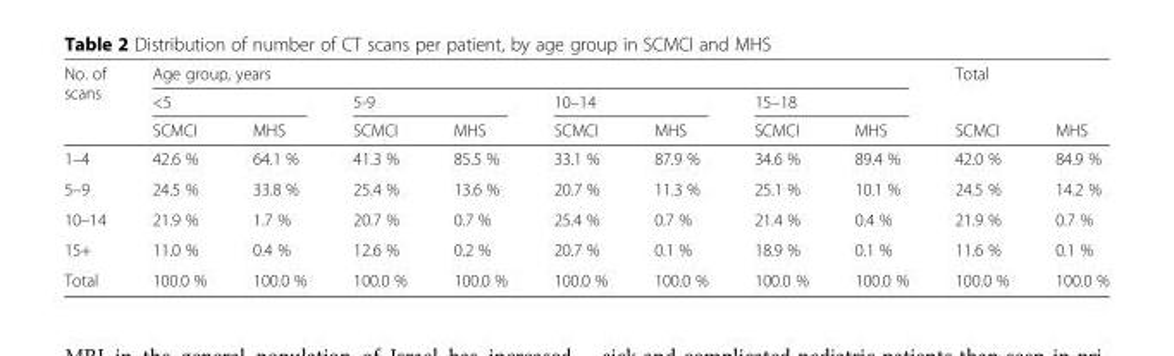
<table><thead><tr><td rowspan="3">No. of scans</td><td colspan="8">Age group, years</td><td rowspan="2" colspan="2">Total</td></tr><tr><td colspan="2">&lt;5</td><td colspan="2">5-9</td><td colspan="2">10–14</td><td colspan="2">15–18</td></tr><tr><td>SCMCI</td><td>MHS</td><td>SCMCI</td><td>MHS</td><td>SCMCI</td><td>MHS</td><td>SCMCI</td><td>MHS</td><td>SCMCI</td><td>MHS</td></tr></thead><tbody><tr><td>1–4</td><td>42.6 %</td><td>64.1 %</td><td>41.3 %</td><td>85.5 %</td><td>33.1 %</td><td>87.9 %</td><td>34.6 %</td><td>89.4 %</td><td>42.0 %</td><td>84.9 %</td></tr><tr><td>5–9</td><td>24.5 %</td><td>33.8 %</td><td>25.4 %</td><td>13.6 %</td><td>20.7 %</td><td>11.3 %</td><td>25.1 %</td><td>10.1 %</td><td>24.5 %</td><td>14.2 %</td></tr><tr><td>10–14</td><td>21.9 %</td><td>1.7 %</td><td>20.7 %</td><td>0.7 %</td><td>25.4 %</td><td>0.7 %</td><td>21.4 %</td><td>0.4 %</td><td>21.9 %</td><td>0.7 %</td></tr><tr><td>15+</td><td>11.0 %</td><td>0.4 %</td><td>12.6 %</td><td>0.2 %</td><td>20.7 %</td><td>0.1 %</td><td>18.9 %</td><td>0.1 %</td><td>11.6 %</td><td>0.1 %</td></tr><tr><td>Total</td><td>100.0 %</td><td>100.0 %</td><td>100.0 %</td><td>100.0 %</td><td>100.0 %</td><td>100.0 %</td><td>100.0 %</td><td>100.0 %</td><td>100.0 %</td><td>100.0 %</td></tr></tbody></table>